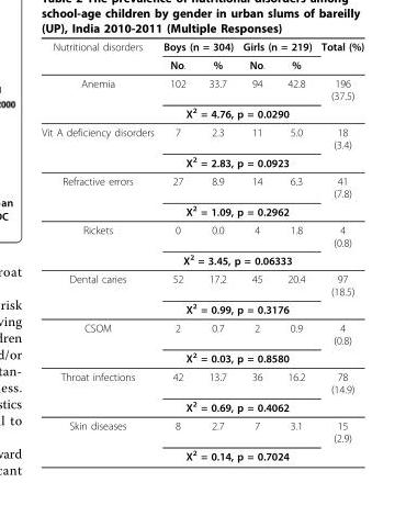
<table><thead><tr><td rowspan="2">Nutritional disorders</td><td colspan="2">Boys (n = 304)</td><td colspan="2">Girls (n = 219)</td><td rowspan="2">Total (%)</td></tr><tr><td>No.</td><td>%</td><td>No.</td><td>%</td></tr></thead><tbody><tr><td rowspan="2">Anemia</td><td>102</td><td>33.7</td><td>94</td><td>42.8</td><td>196 (37.5)</td></tr><tr><td colspan="4">X<sup>2</sup> = 4.76, p = 0.0290</td><td></td></tr><tr><td rowspan="2">Vit A deficiency disorders</td><td>7</td><td>2.3</td><td>11</td><td>5.0</td><td>18 (3.4)</td></tr><tr><td colspan="4">X<sup>2</sup> = 2.83, p = 0.0923</td><td></td></tr><tr><td rowspan="2">Refractive errors</td><td>27</td><td>8.9</td><td>14</td><td>6.3</td><td>41 (7.8)</td></tr><tr><td colspan="4">X<sup>2</sup> = 1.09, p = 0.2962</td><td></td></tr><tr><td rowspan="2">Rickets</td><td>0</td><td>0.0</td><td>4</td><td>1.8</td><td>4 (0.8)</td></tr><tr><td colspan="4">X<sup>2</sup> = 3.45, p = 0.06333</td><td></td></tr><tr><td rowspan="2">Dental caries</td><td>52</td><td>17.2</td><td>45</td><td>20.4</td><td>97 (18.5)</td></tr><tr><td colspan="4">X<sup>2</sup> = 0.99, p = 0.3176</td><td></td></tr><tr><td rowspan="2">CSOM</td><td>2</td><td>0.7</td><td>2</td><td>0.9</td><td>4 (0.8)</td></tr><tr><td colspan="4">X<sup>2</sup> = 0.03, p = 0.8580</td><td></td></tr><tr><td rowspan="2">Throat infections</td><td>42</td><td>13.7</td><td>36</td><td>16.2</td><td>78 (14.9)</td></tr><tr><td colspan="4">X<sup>2</sup> = 0.69, p = 0.4062</td><td></td></tr><tr><td rowspan="2">Skin diseases</td><td>8</td><td>2.7</td><td>7</td><td>3.1</td><td>15 (2.9)</td></tr><tr><td colspan="4">X<sup>2</sup> = 0.14, p = 0.7024</td><td></td></tr></tbody></table>